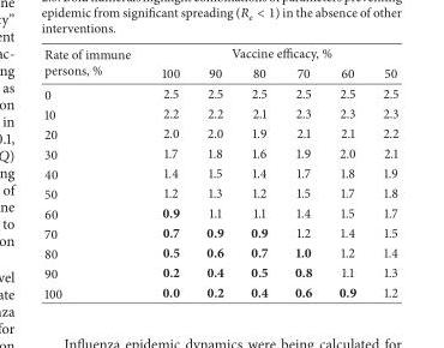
<table><thead><tr><td rowspan="2">Rate of immune persons, %</td><td colspan="6">Vaccine efficacy, %</td></tr><tr><td>100</td><td>90</td><td>80</td><td>70</td><td>60</td><td>50</td></tr></thead><tbody><tr><td>0</td><td>2.5</td><td>2.5</td><td>2.5</td><td>2.5</td><td>2.5</td><td>2.5</td></tr><tr><td>10</td><td>2.2</td><td>2.2</td><td>2.1</td><td>2.3</td><td>2.3</td><td>2.3</td></tr><tr><td>20</td><td>2.0</td><td>2.0</td><td>1.9</td><td>2.1</td><td>2.1</td><td>2.2</td></tr><tr><td>30</td><td>1.7</td><td>1.8</td><td>1.6</td><td>1.9</td><td>2.0</td><td>2.1</td></tr><tr><td>40</td><td>1.4</td><td>1.5</td><td>1.4</td><td>1.7</td><td>1.8</td><td>1.9</td></tr><tr><td>50</td><td>1.2</td><td>1.3</td><td>1.2</td><td>1.5</td><td>1.7</td><td>1.8</td></tr><tr><td>60</td><td>0.9</td><td>1.1</td><td>1.1</td><td>1.4</td><td>1.5</td><td>1.7</td></tr><tr><td>70</td><td>0.7</td><td>0.9</td><td>0.9</td><td>1.2</td><td>1.4</td><td>1.5</td></tr><tr><td>80</td><td>0.5</td><td>0.6</td><td>0.7</td><td>1.0</td><td>1.2</td><td>1.4</td></tr><tr><td>90</td><td>0.2</td><td>0.4</td><td>0.5</td><td>0.8</td><td>1.1</td><td>1.3</td></tr><tr><td>100</td><td>0.0</td><td>0.2</td><td>0.4</td><td>0.6</td><td>0.9</td><td>1.2</td></tr></tbody></table>